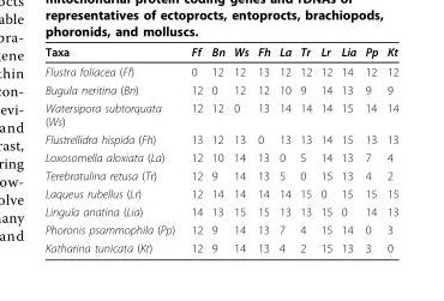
<table><thead><tr><td>Taxa</td><td>Ff</td><td>Bn</td><td>Ws</td><td>Fh</td><td>La</td><td>Tr</td><td>Lr</td><td>Lia</td><td>Pp</td><td>Kt</td></tr></thead><tbody><tr><td>Flustra foliacea (Ff)</td><td>0</td><td>12</td><td>12</td><td>13</td><td>12</td><td>12</td><td>12</td><td>14</td><td>12</td><td>12</td></tr><tr><td>Bugula neritina (Bn)</td><td>12</td><td>0</td><td>12</td><td>12</td><td>10</td><td>9</td><td>14</td><td>13</td><td>9</td><td>9</td></tr><tr><td>Watersipora subtorquata (Ws)</td><td>12</td><td>12</td><td>0</td><td>13</td><td>14</td><td>14</td><td>14</td><td>15</td><td>14</td><td>14</td></tr><tr><td>Flustrellidra hispida (Fh)</td><td>13</td><td>12</td><td>13</td><td>0</td><td>13</td><td>13</td><td>14</td><td>15</td><td>13</td><td>13</td></tr><tr><td>Loxosomella aloxiata (La)</td><td>12</td><td>10</td><td>14</td><td>13</td><td>0</td><td>5</td><td>14</td><td>13</td><td>7</td><td>4</td></tr><tr><td>Terebratulina retusa (Tr)</td><td>12</td><td>9</td><td>14</td><td>13</td><td>5</td><td>0</td><td>15</td><td>13</td><td>4</td><td>2</td></tr><tr><td>Laqueus rubellus (Lr)</td><td>12</td><td>14</td><td>14</td><td>14</td><td>14</td><td>15</td><td>0</td><td>15</td><td>15</td><td>15</td></tr><tr><td>Lingula anatina (Lia)</td><td>14</td><td>13</td><td>15</td><td>15</td><td>13</td><td>13</td><td>15</td><td>0</td><td>14</td><td>13</td></tr><tr><td>Phoronis psammophila (Pp)</td><td>12</td><td>9</td><td>14</td><td>13</td><td>7</td><td>4</td><td>15</td><td>14</td><td>0</td><td>3</td></tr><tr><td>Katharina tunicata (Kt)</td><td>12</td><td>9</td><td>14</td><td>13</td><td>4</td><td>2</td><td>15</td><td>13</td><td>3</td><td>0</td></tr></tbody></table>